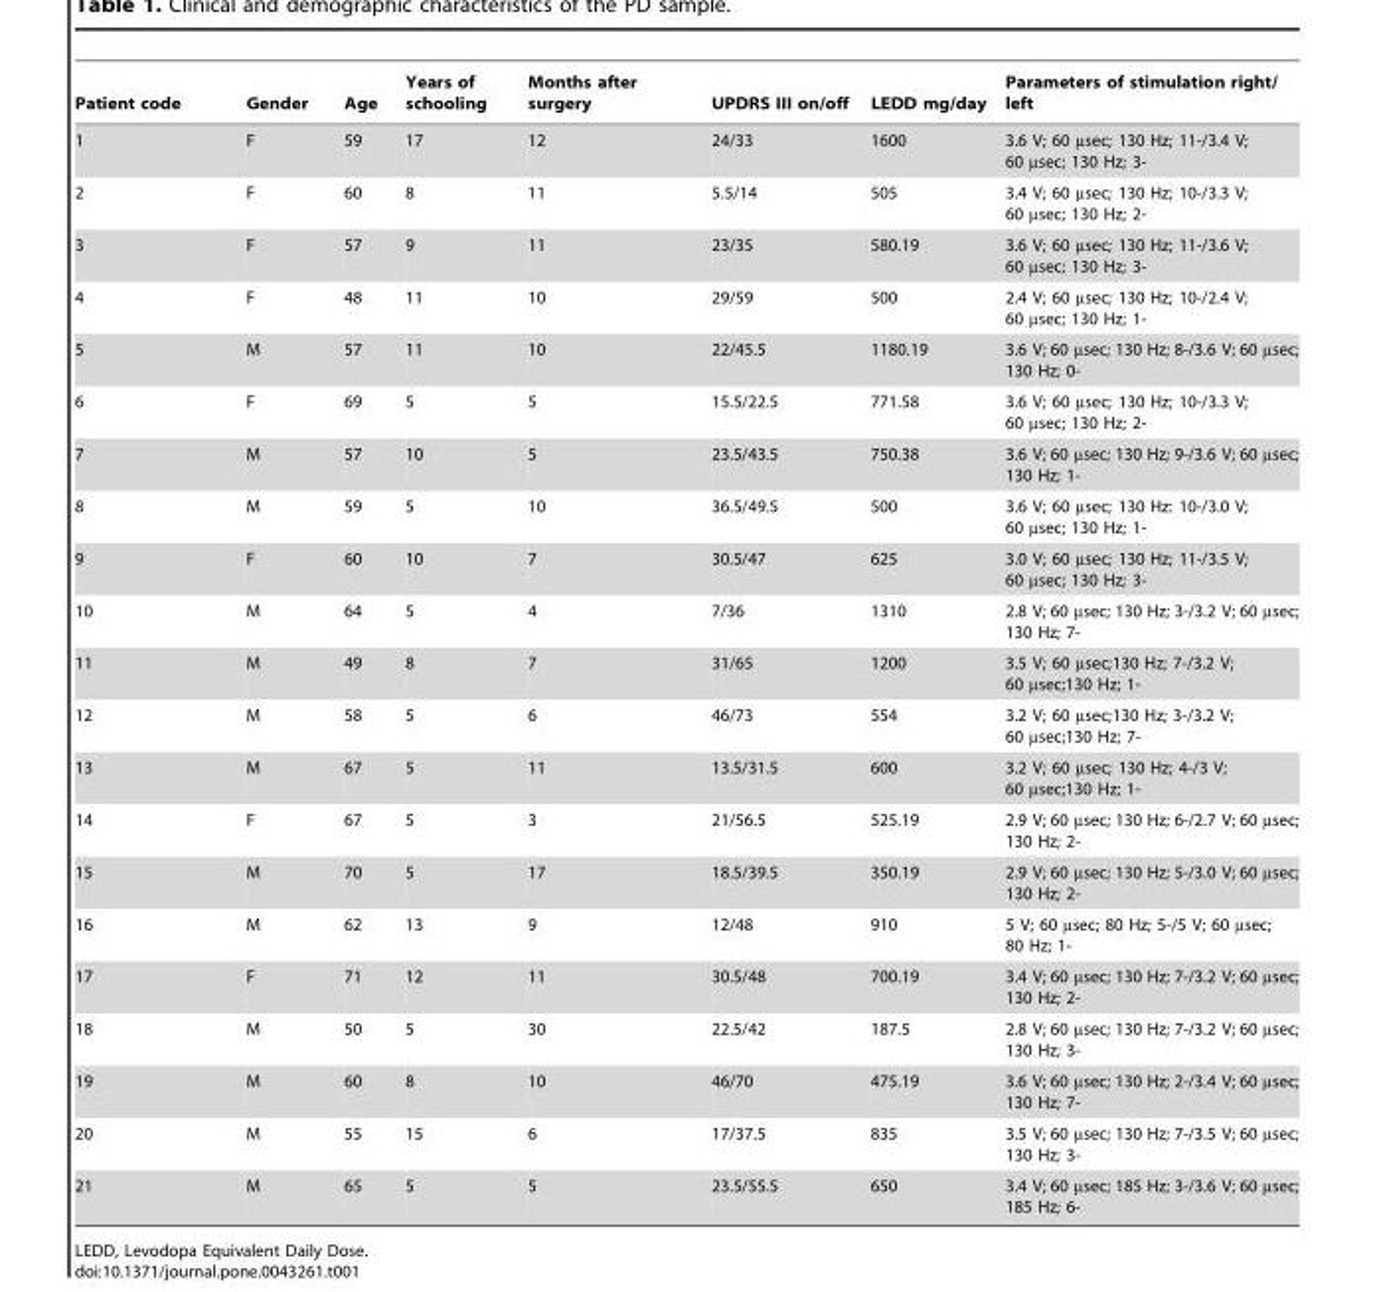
<table><thead><tr><td>Patient code</td><td>Gender</td><td>Age</td><td>Years of schooling</td><td>Months after surgery</td><td>UPDRS III on/off</td><td>LEDD mg/day</td><td>Parameters of stimulation right/ left</td></tr></thead><tbody><tr><td>1</td><td>F</td><td>59</td><td>17</td><td>12</td><td>24/33</td><td>1600</td><td>3.6 V; 60 µsec; 130 Hz; 11-/3.4 V; 60 µsec; 130 Hz; 3-</td></tr><tr><td>2</td><td>F</td><td>60</td><td>8</td><td>11</td><td>5.5/14</td><td>505</td><td>3.4 V; 60 µsec; 130 Hz; 10-/3.3 V; 60 µsec; 130 Hz; 2-</td></tr><tr><td>3</td><td>F</td><td>57</td><td>9</td><td>11</td><td>23/35</td><td>580.19</td><td>3.6 V; 60 µsec; 130 Hz; 11-/3.6 V; 60 µsec; 130 Hz; 3-</td></tr><tr><td>4</td><td>F</td><td>48</td><td>11</td><td>10</td><td>29/59</td><td>500</td><td>2.4 V; 60 µsec; 130 Hz; 10-/2.4 V; 60 µsec; 130 Hz; 1-</td></tr><tr><td>5</td><td>M</td><td>57</td><td>11</td><td>10</td><td>22/45.5</td><td>1180.19</td><td>3.6 V; 60 µsec; 130 Hz; 8-/3.6 V; 60 µsec; 130 Hz; 0-</td></tr><tr><td>6</td><td>F</td><td>69</td><td>5</td><td>5</td><td>15.5/22.5</td><td>771.58</td><td>3.6 V; 60 µsec; 130 Hz; 10-/3.3 V; 60 µsec; 130 Hz; 2-</td></tr><tr><td>7</td><td>M</td><td>57</td><td>10</td><td>5</td><td>23.5/43.5</td><td>750.38</td><td>3.6 V; 60 µsec; 130 Hz; 9-/3.6 V; 60 µsec; 130 Hz; 1-</td></tr><tr><td>8</td><td>M</td><td>59</td><td>5</td><td>10</td><td>36.5/49.5</td><td>500</td><td>3.6 V; 60 µsec; 130 Hz: 10-/3.0 V; 60 µsec; 130 Hz; 1-</td></tr><tr><td>9</td><td>F</td><td>60</td><td>10</td><td>7</td><td>30.5/47</td><td>625</td><td>3.0 V; 60 µsec; 130 Hz; 11-/3.5 V; 60 µsec; 130 Hz; 3-</td></tr><tr><td>10</td><td>M</td><td>64</td><td>5</td><td>4</td><td>7/36</td><td>1310</td><td>2.8 V; 60 µsec; 130 Hz; 3-/3.2 V; 60 µsec; 130 Hz; 7-</td></tr><tr><td>11</td><td>M</td><td>49</td><td>8</td><td>7</td><td>31/65</td><td>1200</td><td>3.5 V; 60 µsec;130 Hz; 7-/3.2 V; 60 µsec;130 Hz; 1-</td></tr><tr><td>12</td><td>M</td><td>58</td><td>5</td><td>6</td><td>46/73</td><td>554</td><td>3.2 V; 60 µsec;130 Hz; 3-/3.2 V; 60 µsec;130 Hz; 7-</td></tr><tr><td>13</td><td>M</td><td>67</td><td>5</td><td>11</td><td>13.5/31.5</td><td>600</td><td>3.2 V; 60 µsec; 130 Hz; 4-/3 V; 60 µsec;130 Hz; 1-</td></tr><tr><td>14</td><td>F</td><td>67</td><td>5</td><td>3</td><td>21/56.5</td><td>525.19</td><td>2.9 V; 60 µsec; 130 Hz; 6-/2.7 V; 60 µsec; 130 Hz; 2-</td></tr><tr><td>15</td><td>M</td><td>70</td><td>5</td><td>17</td><td>18.5/39.5</td><td>350.19</td><td>2.9 V; 60 µsec; 130 Hz; 5-/3.0 V; 60 µsec; 130 Hz; 2-</td></tr><tr><td>16</td><td>M</td><td>62</td><td>13</td><td>9</td><td>12/48</td><td>910</td><td>5 V; 60 µsec; 80 Hz; 5-/5 V; 60 µsec; 80 Hz; 1-</td></tr><tr><td>17</td><td>F</td><td>71</td><td>12</td><td>11</td><td>30.5/48</td><td>700.19</td><td>3.4 V; 60 µsec; 130 Hz; 7-/3.2 V; 60 µsec; 130 Hz; 2-</td></tr><tr><td>18</td><td>M</td><td>50</td><td>5</td><td>30</td><td>22.5/42</td><td>187.5</td><td>2.8 V; 60 µsec; 130 Hz; 7-/3.2 V; 60 µsec; 130 Hz; 3-</td></tr><tr><td>19</td><td>M</td><td>60</td><td>8</td><td>10</td><td>46/70</td><td>475.19</td><td>3.6 V; 60 µsec; 130 Hz; 2-/3.4 V; 60 µsec; 130 Hz; 7-</td></tr><tr><td>20</td><td>M</td><td>55</td><td>15</td><td>6</td><td>17/37.5</td><td>835</td><td>3.5 V; 60 µsec; 130 Hz; 7-/3.5 V; 60 µsec; 130 Hz; 3-</td></tr><tr><td>21</td><td>M</td><td>65</td><td>5</td><td>5</td><td>23.5/55.5</td><td>650</td><td>3.4 V; 60 µsec; 185 Hz; 3-/3.6 V; 60 µsec; 185 Hz; 6-</td></tr></tbody></table>